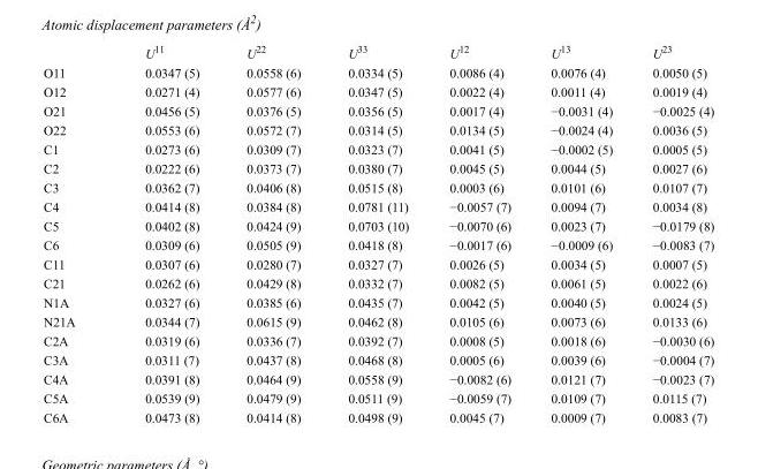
<table><thead><tr><td></td><td>U<sup>11</sup></td><td>U<sup>22</sup></td><td>U<sup>33</sup></td><td>U<sup>12</sup></td><td>U<sup>13</sup></td><td>U<sup>23</sup></td></tr></thead><tbody><tr><td>O11</td><td>0.0347 (5)</td><td>0.0558 (6)</td><td>0.0334 (5)</td><td>0.0086 (4)</td><td>0.0076 (4)</td><td>0.0050 (5)</td></tr><tr><td>O12</td><td>0.0271 (4)</td><td>0.0577 (6)</td><td>0.0347 (5)</td><td>0.0022 (4)</td><td>0.0011 (4)</td><td>0.0019 (4)</td></tr><tr><td>O21</td><td>0.0456 (5)</td><td>0.0376 (5)</td><td>0.0356 (5)</td><td>0.0017 (4)</td><td>−0.0031 (4)</td><td>−0.0025 (4)</td></tr><tr><td>O22</td><td>0.0553 (6)</td><td>0.0572 (7)</td><td>0.0314 (5)</td><td>0.0134 (5)</td><td>−0.0024 (4)</td><td>0.0036 (5)</td></tr><tr><td>C1</td><td>0.0273 (6)</td><td>0.0309 (7)</td><td>0.0323 (7)</td><td>0.0041 (5)</td><td>−0.0002 (5)</td><td>0.0005 (5)</td></tr><tr><td>C2</td><td>0.0222 (6)</td><td>0.0373 (7)</td><td>0.0380 (7)</td><td>0.0045 (5)</td><td>0.0044 (5)</td><td>0.0027 (6)</td></tr><tr><td>C3</td><td>0.0362 (7)</td><td>0.0406 (8)</td><td>0.0515 (8)</td><td>0.0003 (6)</td><td>0.0101 (6)</td><td>0.0107 (7)</td></tr><tr><td>C4</td><td>0.0414 (8)</td><td>0.0384 (8)</td><td>0.0781 (11)</td><td>−0.0057 (7)</td><td>0.0094 (7)</td><td>0.0034 (8)</td></tr><tr><td>C5</td><td>0.0402 (8)</td><td>0.0424 (9)</td><td>0.0703 (10)</td><td>−0.0070 (6)</td><td>0.0023 (7)</td><td>−0.0179 (8)</td></tr><tr><td>C6</td><td>0.0309 (6)</td><td>0.0505 (9)</td><td>0.0418 (8)</td><td>−0.0017 (6)</td><td>−0.0009 (6)</td><td>−0.0083 (7)</td></tr><tr><td>C11</td><td>0.0307 (6)</td><td>0.0280 (7)</td><td>0.0327 (7)</td><td>0.0026 (5)</td><td>0.0034 (5)</td><td>0.0007 (5)</td></tr><tr><td>C21</td><td>0.0262 (6)</td><td>0.0429 (8)</td><td>0.0332 (7)</td><td>0.0082 (5)</td><td>0.0061 (5)</td><td>0.0022 (6)</td></tr><tr><td>N1A</td><td>0.0327 (6)</td><td>0.0385 (6)</td><td>0.0435 (7)</td><td>0.0042 (5)</td><td>0.0040 (5)</td><td>0.0024 (5)</td></tr><tr><td>N21A</td><td>0.0344 (7)</td><td>0.0615 (9)</td><td>0.0462 (8)</td><td>0.0105 (6)</td><td>0.0073 (6)</td><td>0.0133 (6)</td></tr><tr><td>C2A</td><td>0.0319 (6)</td><td>0.0336 (7)</td><td>0.0392 (7)</td><td>0.0008 (5)</td><td>0.0018 (6)</td><td>−0.0030 (6)</td></tr><tr><td>C3A</td><td>0.0311 (7)</td><td>0.0437 (8)</td><td>0.0468 (8)</td><td>0.0005 (6)</td><td>0.0039 (6)</td><td>−0.0004 (7)</td></tr><tr><td>C4A</td><td>0.0391 (8)</td><td>0.0464 (9)</td><td>0.0558 (9)</td><td>−0.0082 (6)</td><td>0.0121 (7)</td><td>−0.0023 (7)</td></tr><tr><td>C5A</td><td>0.0539 (9)</td><td>0.0479 (9)</td><td>0.0511 (9)</td><td>−0.0059 (7)</td><td>0.0109 (7)</td><td>0.0115 (7)</td></tr><tr><td>C6A</td><td>0.0473 (8)</td><td>0.0414 (8)</td><td>0.0498 (9)</td><td>0.0045 (7)</td><td>0.0009 (7)</td><td>0.0083 (7)</td></tr></tbody></table>